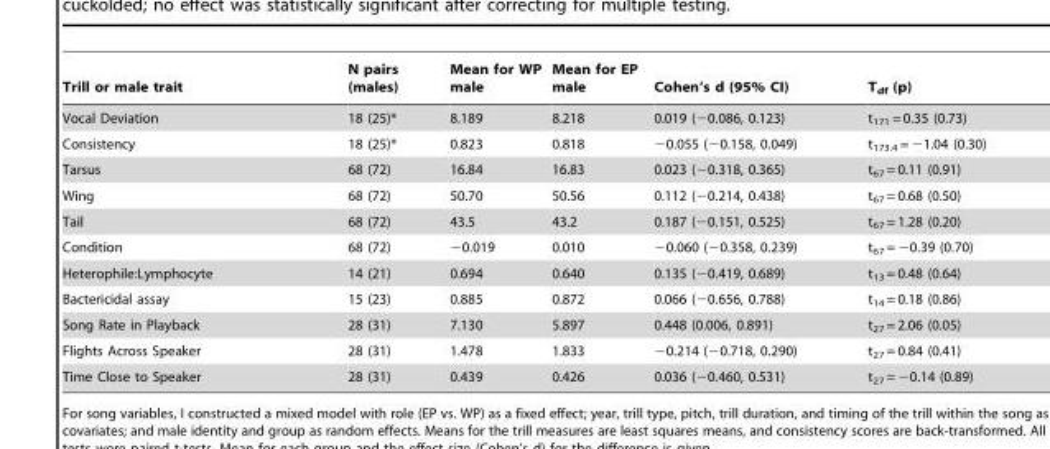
<table><thead><tr><td>Trill or male trait</td><td>N pairs (males)</td><td>Mean for WP male</td><td>Mean for EP male</td><td>Cohen’s d (95% CI)</td><td>T<sub>df</sub> (p)</td></tr></thead><tbody><tr><td>Vocal Deviation</td><td>18 (25)*</td><td>8.189</td><td>8.218</td><td>0.019 (−0.086, 0.123)</td><td>t<sub>171</sub> = 0.35 (0.73)</td></tr><tr><td>Consistency</td><td>18 (25)*</td><td>0.823</td><td>0.818</td><td>−0.055 (−0.158, 0.049)</td><td>t<sub>173.4</sub> = −1.04 (0.30)</td></tr><tr><td>Tarsus</td><td>68 (72)</td><td>16.84</td><td>16.83</td><td>0.023 (−0.318, 0.365)</td><td>t<sub>67</sub> = 0.11 (0.91)</td></tr><tr><td>Wing</td><td>68 (72)</td><td>50.70</td><td>50.56</td><td>0.112 (−0.214, 0.438)</td><td>t<sub>67</sub> = 0.68 (0.50)</td></tr><tr><td>Tail</td><td>68 (72)</td><td>43.5</td><td>43.2</td><td>0.187 (−0.151, 0.525)</td><td>t<sub>67</sub> = 1.28 (0.20)</td></tr><tr><td>Condition</td><td>68 (72)</td><td>−0.019</td><td>0.010</td><td>−0.060 (−0.358, 0.239)</td><td>t<sub>67</sub> = −0.39 (0.70)</td></tr><tr><td>Heterophile:Lymphocyte</td><td>14 (21)</td><td>0.694</td><td>0.640</td><td>0.135 (−0.419, 0.689)</td><td>t<sub>13</sub> = 0.48 (0.64)</td></tr><tr><td>Bactericidal assay</td><td>15 (23)</td><td>0.885</td><td>0.872</td><td>0.066 (−0.656, 0.788)</td><td>t<sub>14</sub> = 0.18 (0.86)</td></tr><tr><td>Song Rate in Playback</td><td>28 (31)</td><td>7.130</td><td>5.897</td><td>0.448 (0.006, 0.891)</td><td>t<sub>27</sub> = 2.06 (0.05)</td></tr><tr><td>Flights Across Speaker</td><td>28 (31)</td><td>1.478</td><td>1.833</td><td>−0.214 (−0.718, 0.290)</td><td>t<sub>27</sub> = 0.84 (0.41)</td></tr><tr><td>Time Close to Speaker</td><td>28 (31)</td><td>0.439</td><td>0.426</td><td>0.036 (−0.460, 0.531)</td><td>t<sub>27</sub> = −0.14 (0.89)</td></tr></tbody></table>